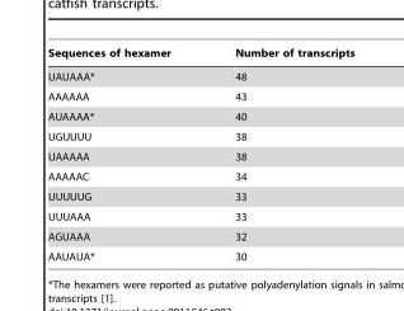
<table><thead><tr><td>Sequences of hexamer</td><td>Number of transcripts</td></tr></thead><tbody><tr><td>UAUAAA*</td><td>48</td></tr><tr><td>AAAAAA</td><td>43</td></tr><tr><td>AUAAAA*</td><td>40</td></tr><tr><td>UGUUUU</td><td>38</td></tr><tr><td>UAAAAA</td><td>38</td></tr><tr><td>AAAAAC</td><td>34</td></tr><tr><td>UUUUUG</td><td>33</td></tr><tr><td>UUUAAA</td><td>33</td></tr><tr><td>AGUAAA</td><td>32</td></tr><tr><td>AAUAUA*</td><td>30</td></tr></tbody></table>